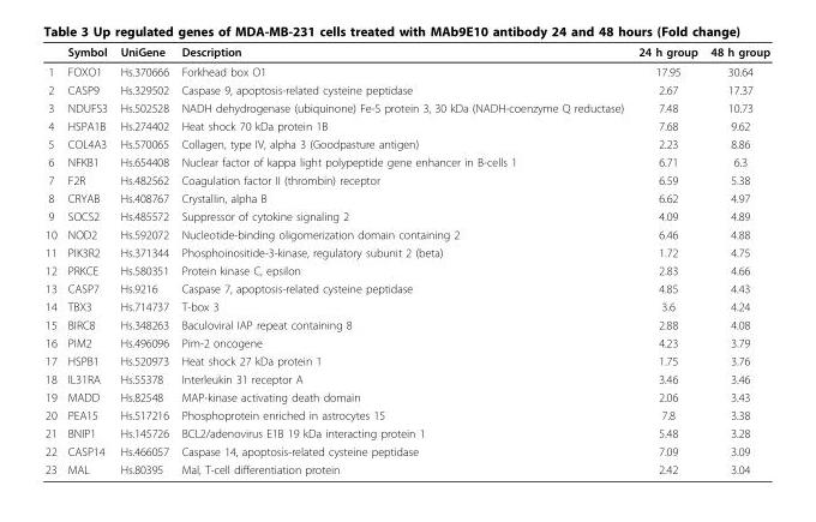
<table><thead><tr><td></td><td>Symbol</td><td>UniGene</td><td>Description</td><td>24 h group</td><td>48 h group</td></tr></thead><tbody><tr><td>1</td><td>FOXO1</td><td>Hs.370666</td><td>Forkhead box O1</td><td>17.95</td><td>30.64</td></tr><tr><td>2</td><td>CASP9</td><td>Hs.329502</td><td>Caspase 9, apoptosis-related cysteine peptidase</td><td>2.67</td><td>17.37</td></tr><tr><td>3</td><td>NDUFS3</td><td>Hs.502528</td><td>NADH dehydrogenase (ubiquinone) Fe-S protein 3, 30 kDa (NADH-coenzyme Q reductase)</td><td>7.48</td><td>10.73</td></tr><tr><td>4</td><td>HSPA1B</td><td>Hs.274402</td><td>Heat shock 70 kDa protein 1B</td><td>7.68</td><td>9.62</td></tr><tr><td>5</td><td>COL4A3</td><td>Hs.570065</td><td>Collagen, type IV, alpha 3 (Goodpasture antigen)</td><td>2.23</td><td>8.86</td></tr><tr><td>6</td><td>NFKB1</td><td>Hs.654408</td><td>Nuclear factor of kappa light polypeptide gene enhancer in B-cells 1</td><td>6.71</td><td>6.3</td></tr><tr><td>7</td><td>F2R</td><td>Hs.482562</td><td>Coagulation factor II (thrombin) receptor</td><td>6.59</td><td>5.38</td></tr><tr><td>8</td><td>CRYAB</td><td>Hs.408767</td><td>Crystallin, alpha B</td><td>6.62</td><td>4.97</td></tr><tr><td>9</td><td>SOCS2</td><td>Hs.485572</td><td>Suppressor of cytokine signaling 2</td><td>4.09</td><td>4.89</td></tr><tr><td>10</td><td>NOD2</td><td>Hs.592072</td><td>Nucleotide-binding oligomerization domain containing 2</td><td>6.46</td><td>4.88</td></tr><tr><td>11</td><td>PIK3R2</td><td>Hs.371344</td><td>Phosphoinositide-3-kinase, regulatory subunit 2 (beta)</td><td>1.72</td><td>4.75</td></tr><tr><td>12</td><td>PRKCE</td><td>Hs.580351</td><td>Protein kinase C, epsilon</td><td>2.83</td><td>4.66</td></tr><tr><td>13</td><td>CASP7</td><td>Hs.9216</td><td>Caspase 7, apoptosis-related cysteine peptidase</td><td>4.85</td><td>4.43</td></tr><tr><td>14</td><td>TBX3</td><td>Hs.714737</td><td>T-box 3</td><td>3.6</td><td>4.24</td></tr><tr><td>15</td><td>BIRC8</td><td>Hs.348263</td><td>Baculoviral IAP repeat containing 8</td><td>2.88</td><td>4.08</td></tr><tr><td>16</td><td>PIM2</td><td>Hs.496096</td><td>Pim-2 oncogene</td><td>4.23</td><td>3.79</td></tr><tr><td>17</td><td>HSPB1</td><td>Hs.520973</td><td>Heat shock 27 kDa protein 1</td><td>1.75</td><td>3.76</td></tr><tr><td>18</td><td>IL31RA</td><td>Hs.55378</td><td>Interleukin 31 receptor A</td><td>3.46</td><td>3.46</td></tr><tr><td>19</td><td>MADD</td><td>Hs.82548</td><td>MAP-kinase activating death domain</td><td>2.06</td><td>3.43</td></tr><tr><td>20</td><td>PEA15</td><td>Hs.517216</td><td>Phosphoprotein enriched in astrocytes 15</td><td>7.8</td><td>3.38</td></tr><tr><td>21</td><td>BNIP1</td><td>Hs.145726</td><td>BCL2/adenovirus E1B 19 kDa interacting protein 1</td><td>5.48</td><td>3.28</td></tr><tr><td>22</td><td>CASP14</td><td>Hs.466057</td><td>Caspase 14, apoptosis-related cysteine peptidase</td><td>7.09</td><td>3.09</td></tr><tr><td>23</td><td>MAL</td><td>Hs.80395</td><td>Mal, T-cell differentiation protein</td><td>2.42</td><td>3.04</td></tr></tbody></table>